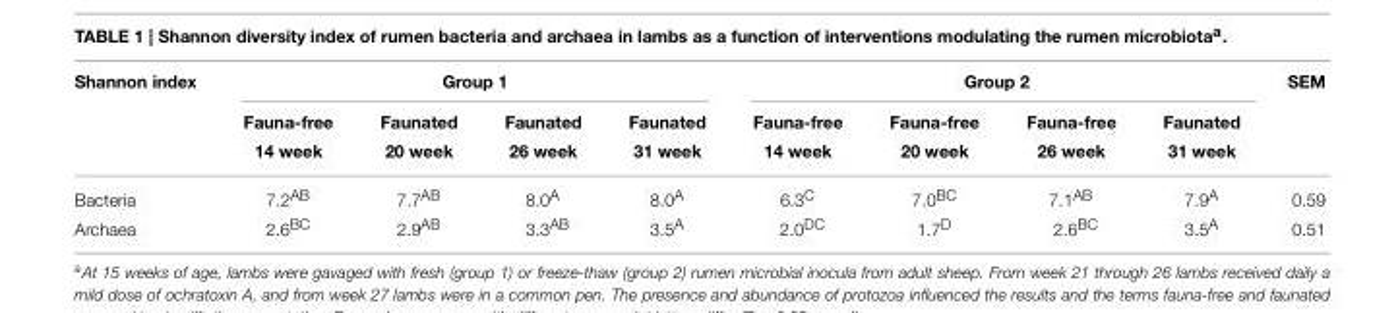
<table><thead><tr><td rowspan="2">Shannon index</td><td colspan="4">Group 1</td><td colspan="4">Group 2</td><td rowspan="2">SEM</td></tr><tr><td>Fauna-free 14 week</td><td>Faunated 20 week</td><td>Faunated 26 week</td><td>Faunated 31 week</td><td>Fauna-free 14 week</td><td>Fauna-free 20 week</td><td>Fauna-free 26 week</td><td>Faunated 31 week</td></tr></thead><tbody><tr><td>Bacteria</td><td>7.2<sup>AB</sup></td><td>7.7<sup>AB</sup></td><td>8.0<sup>A</sup></td><td>8.0<sup>A</sup></td><td>6.3<sup>C</sup></td><td>7.0<sup>BC</sup></td><td>7.1<sup>AB</sup></td><td>7.9<sup>A</sup></td><td>0.59</td></tr><tr><td>Archaea</td><td>2.6<sup>BC</sup></td><td>2.9<sup>AB</sup></td><td>3.3<sup>AB</sup></td><td>3.5<sup>A</sup></td><td>2.0<sup>DC</sup></td><td>1.7<sup>D</sup></td><td>2.6<sup>BC</sup></td><td>3.5<sup>A</sup></td><td>0.51</td></tr></tbody></table>